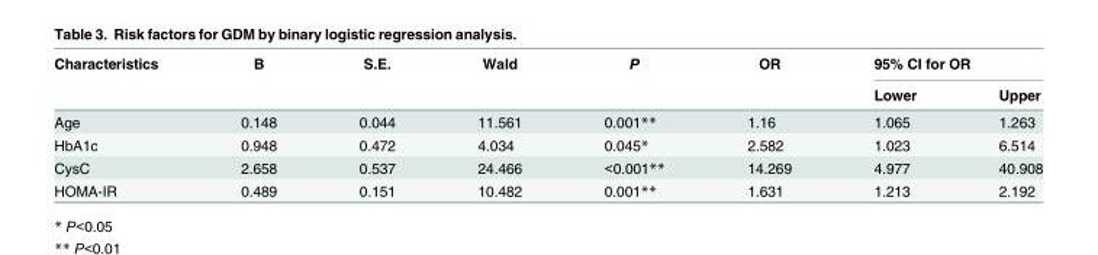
<table><thead><tr><td rowspan="2">Characteristics</td><td rowspan="2">B</td><td rowspan="2">S.E.</td><td rowspan="2">Wald</td><td rowspan="2">P</td><td rowspan="2">OR</td><td colspan="2">95% CI for OR</td></tr><tr><td>Lower</td><td>Upper</td></tr></thead><tbody><tr><td>Age</td><td>0.148</td><td>0.044</td><td>11.561</td><td>0.001**</td><td>1.16</td><td>1.065</td><td>1.263</td></tr><tr><td>HbA1c</td><td>0.948</td><td>0.472</td><td>4.034</td><td>0.045*</td><td>2.582</td><td>1.023</td><td>6.514</td></tr><tr><td>CysC</td><td>2.658</td><td>0.537</td><td>24.466</td><td>&lt;0.001**</td><td>14.269</td><td>4.977</td><td>40.908</td></tr><tr><td>HOMA-IR</td><td>0.489</td><td>0.151</td><td>10.482</td><td>0.001**</td><td>1.631</td><td>1.213</td><td>2.192</td></tr></tbody></table>